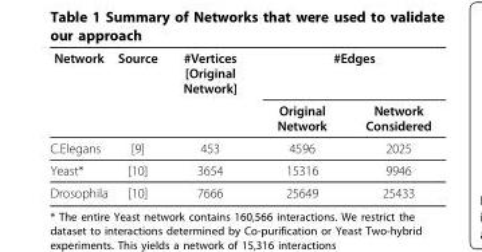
<table><thead><tr><td rowspan="2">Network</td><td rowspan="2">Source</td><td rowspan="2">#Vertices [Original Network]</td><td colspan="2">#Edges</td></tr><tr><td>Original Network</td><td>Network Considered</td></tr></thead><tbody><tr><td>C.Elegans</td><td>[9]</td><td>453</td><td>4596</td><td>2025</td></tr><tr><td>Yeast*</td><td>[10]</td><td>3654</td><td>15316</td><td>9946</td></tr><tr><td>Drosophila</td><td>[10]</td><td>7666</td><td>25649</td><td>25433</td></tr></tbody></table>